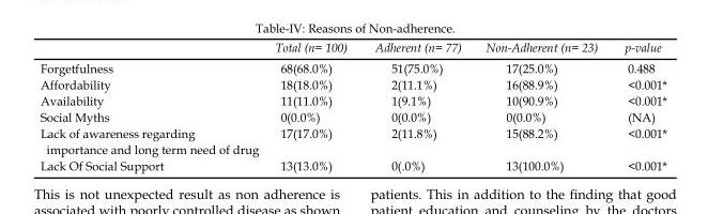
<table><thead><tr><td></td><td>Total (n= 100)</td><td>Adherent (n= 77)</td><td>Non-Adherent (n= 23)</td><td>p-value</td></tr></thead><tbody><tr><td>Forgetfulness</td><td>68(68.0%)</td><td>51(75.0%)</td><td>17(25.0%)</td><td>0.488</td></tr><tr><td>Affordability</td><td>18(18.0%)</td><td>2(11.1%)</td><td>16(88.9%)</td><td>&lt;0.001*</td></tr><tr><td>Availability</td><td>11(11.0%)</td><td>1(9.1%)</td><td>10(90.9%)</td><td>&lt;0.001*</td></tr><tr><td>Social Myths</td><td>0(0.0%)</td><td>0(0.0%)</td><td>0(0.0%)</td><td>(NA)</td></tr><tr><td>Lack of awareness regarding importance and long term need of drug</td><td>17(17.0%)</td><td>2(11.8%)</td><td>15(88.2%)</td><td>&lt;0.001*</td></tr><tr><td>Lack Of Social Support</td><td>13(13.0%)</td><td>0(.0%)</td><td>13(100.0%)</td><td>&lt;0.001*</td></tr></tbody></table>